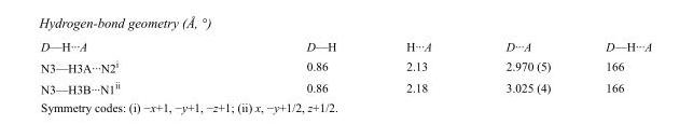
<table><tbody><tr><td>D—H···A</td><td>D—H</td><td>H···A</td><td>D···A</td><td>D—H···A</td></tr><tr><td>N3—H3A···N2<sup>i</sup></td><td>0.86</td><td>2.13</td><td>2.970 (5)</td><td>166</td></tr><tr><td>N3—H3B···N1<sup>ii</sup></td><td>0.86</td><td>2.18</td><td>3.025 (4)</td><td>166</td></tr></tbody></table>